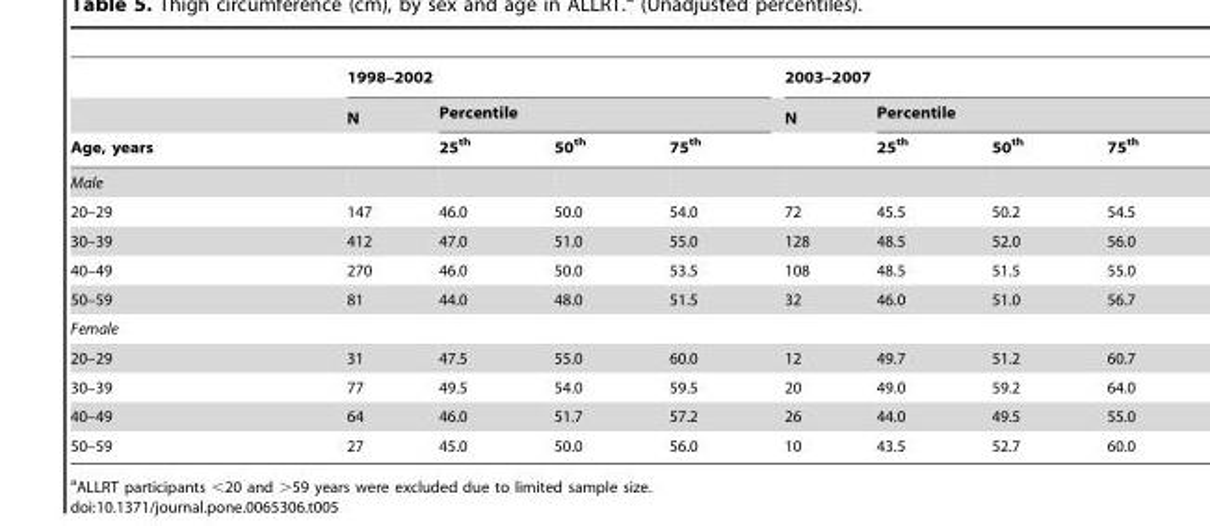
<table><thead><tr><td rowspan="3">Age, years</td><td colspan="4">1998–2002</td><td colspan="4">2003–2007</td></tr><tr><td rowspan="2">N</td><td colspan="3">Percentile</td><td rowspan="2">N</td><td colspan="3">Percentile</td></tr><tr><td>25<sup>th</sup></td><td>50<sup>th</sup></td><td>75<sup>th</sup></td><td>25<sup>th</sup></td><td>50<sup>th</sup></td><td>75<sup>th</sup></td></tr></thead><tbody><tr><td colspan="9">Male</td></tr><tr><td>20–29</td><td>147</td><td>46.0</td><td>50.0</td><td>54.0</td><td>72</td><td>45.5</td><td>50.2</td><td>54.5</td></tr><tr><td>30–39</td><td>412</td><td>47.0</td><td>51.0</td><td>55.0</td><td>128</td><td>48.5</td><td>52.0</td><td>56.0</td></tr><tr><td>40–49</td><td>270</td><td>46.0</td><td>50.0</td><td>53.5</td><td>108</td><td>48.5</td><td>51.5</td><td>55.0</td></tr><tr><td>50–59</td><td>81</td><td>44.0</td><td>48.0</td><td>51.5</td><td>32</td><td>46.0</td><td>51.0</td><td>56.7</td></tr><tr><td colspan="9">Female</td></tr><tr><td>20–29</td><td>31</td><td>47.5</td><td>55.0</td><td>60.0</td><td>12</td><td>49.7</td><td>51.2</td><td>60.7</td></tr><tr><td>30–39</td><td>77</td><td>49.5</td><td>54.0</td><td>59.5</td><td>20</td><td>49.0</td><td>59.2</td><td>64.0</td></tr><tr><td>40–49</td><td>64</td><td>46.0</td><td>51.7</td><td>57.2</td><td>26</td><td>44.0</td><td>49.5</td><td>55.0</td></tr><tr><td>50–59</td><td>27</td><td>45.0</td><td>50.0</td><td>56.0</td><td>10</td><td>43.5</td><td>52.7</td><td>60.0</td></tr></tbody></table>